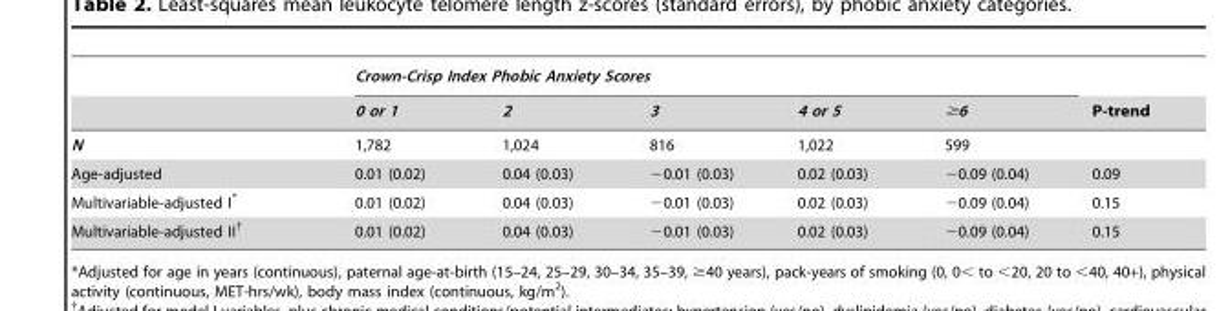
<table><thead><tr><td rowspan="2"></td><td colspan="5">Crown-Crisp Index Phobic Anxiety Scores</td><td rowspan="2">P-trend</td></tr><tr><td>0 or 1</td><td>2</td><td>3</td><td>4 or 5</td><td>≥6</td></tr></thead><tbody><tr><td>N</td><td>1,782</td><td>1,024</td><td>816</td><td>1,022</td><td>599</td><td></td></tr><tr><td>Age-adjusted</td><td>0.01 (0.02)</td><td>0.04 (0.03)</td><td>−0.01 (0.03)</td><td>0.02 (0.03)</td><td>−0.09 (0.04)</td><td>0.09</td></tr><tr><td>Multivariable-adjusted I*</td><td>0.01 (0.02)</td><td>0.04 (0.03)</td><td>−0.01 (0.03)</td><td>0.02 (0.03)</td><td>−0.09 (0.04)</td><td>0.15</td></tr><tr><td>Multivariable-adjusted II†</td><td>0.01 (0.02)</td><td>0.04 (0.03)</td><td>−0.01 (0.03)</td><td>0.02 (0.03)</td><td>−0.09 (0.04)</td><td>0.15</td></tr></tbody></table>